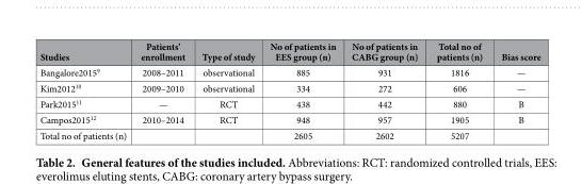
<table><thead><tr><td>Studies</td><td>Patients’ enrollment</td><td>Type of study</td><td>No of patients in EES group (n)</td><td>No of patients in CABG group (n)</td><td>Total no of patients (n)</td><td>Bias score</td></tr></thead><tbody><tr><td>Bangalore2015<sup>9</sup></td><td>2008–2011</td><td>observational</td><td>885</td><td>931</td><td>1816</td><td>—</td></tr><tr><td>Kim2012<sup>10</sup></td><td>2009–2010</td><td>observational</td><td>334</td><td>272</td><td>606</td><td>—</td></tr><tr><td>Park2015<sup>11</sup></td><td>—</td><td>RCT</td><td>438</td><td>442</td><td>880</td><td>B</td></tr><tr><td>Campos2015<sup>12</sup></td><td>2010–2014</td><td>RCT</td><td>948</td><td>957</td><td>1905</td><td>B</td></tr><tr><td>Total no of patients (n)</td><td></td><td></td><td>2605</td><td>2602</td><td>5207</td><td></td></tr></tbody></table>